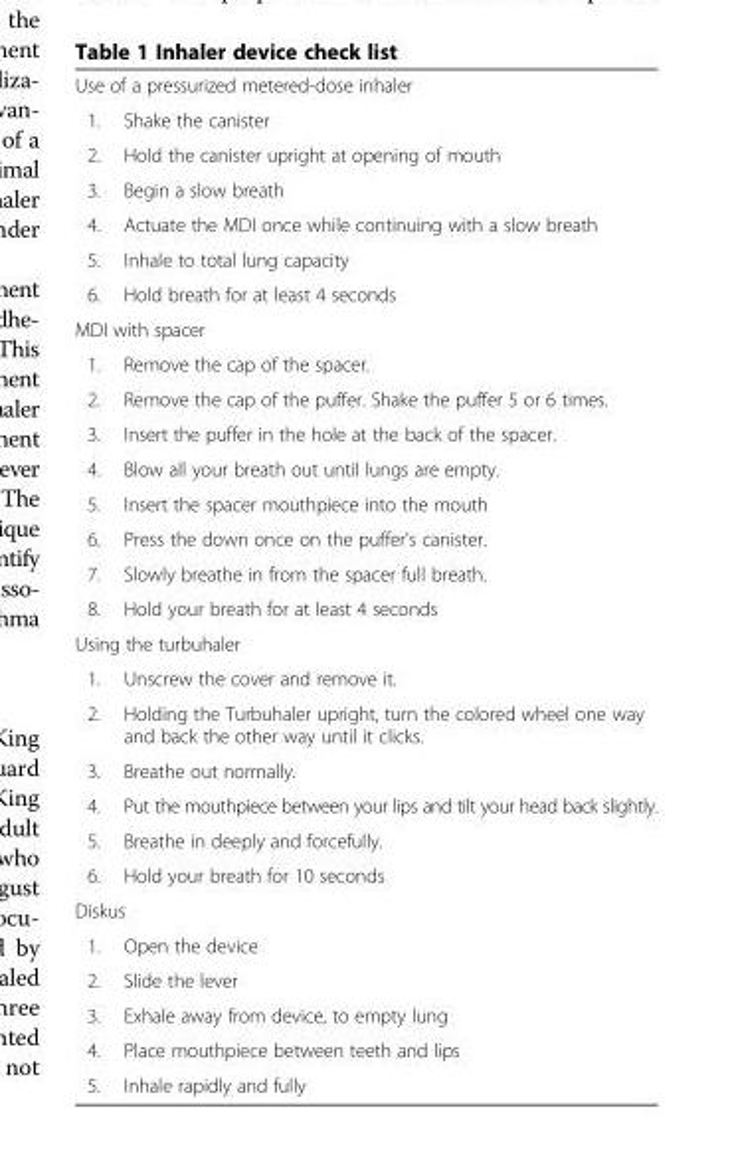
<table><tbody><tr><td colspan="2">Use of a pressurized metered-dose inhaler</td></tr><tr><td>1.</td><td>Shake the canister</td></tr><tr><td>2.</td><td>Hold the canister upright at opening of mouth</td></tr><tr><td>3.</td><td>Begin a slow breath</td></tr><tr><td>4.</td><td>Actuate the MDI once while continuing with a slow breath</td></tr><tr><td>5.</td><td>Inhale to total lung capacity</td></tr><tr><td>6.</td><td>Hold breath for at least 4 seconds</td></tr><tr><td colspan="2">MDI with spacer</td></tr><tr><td>1.</td><td>Remove the cap of the spacer.</td></tr><tr><td>2.</td><td>Remove the cap of the puffer. Shake the puffer 5 or 6 times.</td></tr><tr><td>3.</td><td>Insert the puffer in the hole at the back of the spacer.</td></tr><tr><td>4.</td><td>Blow all your breath out until lungs are empty.</td></tr><tr><td>5.</td><td>Insert the spacer mouthpiece into the mouth</td></tr><tr><td>6.</td><td>Press the down once on the puffer&#x27;s canister.</td></tr><tr><td>7.</td><td>Slowly breathe in from the spacer full breath.</td></tr><tr><td>8.</td><td>Hold your breath for at least 4 seconds</td></tr><tr><td colspan="2">Using the turbuhaler</td></tr><tr><td>1.</td><td>Unscrew the cover and remove it.</td></tr><tr><td>2.</td><td>Holding the Turbuhaler upright, turn the colored wheel one way and back the other way until it clicks.</td></tr><tr><td>3.</td><td>Breathe out normally.</td></tr><tr><td>4.</td><td>Put the mouthpiece between your lips and tilt your head back slightly.</td></tr><tr><td>5.</td><td>Breathe in deeply and forcefully.</td></tr><tr><td>6.</td><td>Hold your breath for 10 seconds</td></tr><tr><td colspan="2">Diskus</td></tr><tr><td>1.</td><td>Open the device</td></tr><tr><td>2.</td><td>Slide the lever</td></tr><tr><td>3.</td><td>Exhale away from device, to empty lung</td></tr><tr><td>4.</td><td>Place mouthpiece between teeth and lips</td></tr><tr><td>5.</td><td>Inhale rapidly and fully</td></tr></tbody></table>